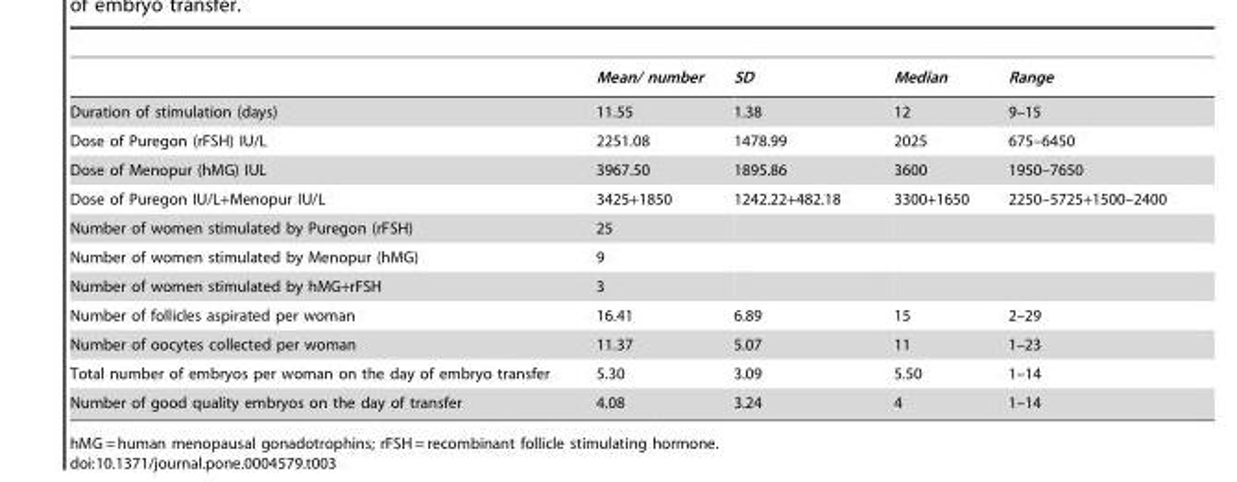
<table><thead><tr><td></td><td>Mean/ number</td><td>SD</td><td>Median</td><td>Range</td></tr></thead><tbody><tr><td>Duration of stimulation (days)</td><td>11.55</td><td>1.38</td><td>12</td><td>9–15</td></tr><tr><td>Dose of Puregon (rFSH) IU/L</td><td>2251.08</td><td>1478.99</td><td>2025</td><td>675–6450</td></tr><tr><td>Dose of Menopur (hMG) IUL</td><td>3967.50</td><td>1895.86</td><td>3600</td><td>1950–7650</td></tr><tr><td>Dose of Puregon IU/L+Menopur IU/L</td><td>3425+1850</td><td>1242.22+482.18</td><td>3300+1650</td><td>2250–5725+1500–2400</td></tr><tr><td>Number of women stimulated by Puregon (rFSH)</td><td>25</td><td></td><td></td><td></td></tr><tr><td>Number of women stimulated by Menopur (hMG)</td><td>9</td><td></td><td></td><td></td></tr><tr><td>Number of women stimulated by hMG+rFSH</td><td>3</td><td></td><td></td><td></td></tr><tr><td>Number of follicles aspirated per woman</td><td>16.41</td><td>6.89</td><td>15</td><td>2–29</td></tr><tr><td>Number of oocytes collected per woman</td><td>11.37</td><td>5.07</td><td>11</td><td>1–23</td></tr><tr><td>Total number of embryos per woman on the day of embryo transfer</td><td>5.30</td><td>3.09</td><td>5.50</td><td>1–14</td></tr><tr><td>Number of good quality embryos on the day of transfer</td><td>4.08</td><td>3.24</td><td>4</td><td>1–14</td></tr></tbody></table>